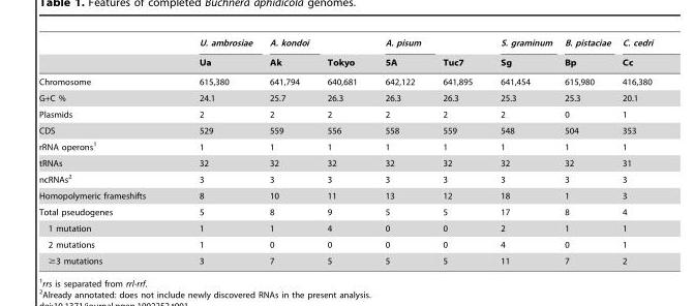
<table><thead><tr><td rowspan="2"></td><td rowspan="2">U. ambrosiae Ua</td><td rowspan="2">A. kondoi Ak</td><td rowspan="2">Tokyo</td><td rowspan="2">A. pisum 5A</td><td rowspan="2">Tuc7</td><td rowspan="2">S. graminum Sg</td><td rowspan="2">B. pistaciae Bp</td><td rowspan="2">C. cedri Cc</td></tr><tr></tr></thead><tbody><tr><td>Chromosome</td><td>615,380</td><td>641,794</td><td>640,681</td><td>642,122</td><td>641,895</td><td>641,454</td><td>615,980</td><td>416,380</td></tr><tr><td>G+C %</td><td>24.1</td><td>25.7</td><td>26.3</td><td>26.3</td><td>26.3</td><td>25.3</td><td>25.3</td><td>20.1</td></tr><tr><td>Plasmids</td><td>2</td><td>2</td><td>2</td><td>2</td><td>2</td><td>2</td><td>0</td><td>1</td></tr><tr><td>CDS</td><td>529</td><td>559</td><td>556</td><td>558</td><td>559</td><td>548</td><td>504</td><td>353</td></tr><tr><td>rRNA operons<sup>1</sup></td><td>1</td><td>1</td><td>1</td><td>1</td><td>1</td><td>1</td><td>1</td><td>1</td></tr><tr><td>tRNAs</td><td>32</td><td>32</td><td>32</td><td>32</td><td>32</td><td>32</td><td>32</td><td>31</td></tr><tr><td>ncRNAs<sup>2</sup></td><td>3</td><td>3</td><td>3</td><td>3</td><td>3</td><td>3</td><td>3</td><td>3</td></tr><tr><td>Homopolymeric frameshifts</td><td>8</td><td>10</td><td>11</td><td>13</td><td>12</td><td>18</td><td>1</td><td>3</td></tr><tr><td>Total pseudogenes</td><td>5</td><td>8</td><td>9</td><td>5</td><td>5</td><td>17</td><td>8</td><td>4</td></tr><tr><td>1 mutation</td><td>1</td><td>1</td><td>4</td><td>0</td><td>0</td><td>2</td><td>1</td><td>1</td></tr><tr><td>2 mutations</td><td>1</td><td>0</td><td>0</td><td>0</td><td>0</td><td>4</td><td>0</td><td>1</td></tr><tr><td>≥3 mutations</td><td>3</td><td>7</td><td>5</td><td>5</td><td>5</td><td>11</td><td>7</td><td>2</td></tr></tbody></table>